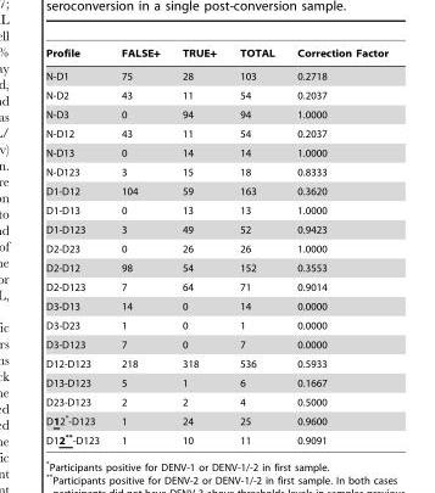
<table><thead><tr><td>Profile</td><td>FALSE+</td><td>TRUE+</td><td>TOTAL</td><td>Correction Factor</td></tr></thead><tbody><tr><td>N-D1</td><td>75</td><td>28</td><td>103</td><td>0.2718</td></tr><tr><td>N-D2</td><td>43</td><td>11</td><td>54</td><td>0.2037</td></tr><tr><td>N-D3</td><td>0</td><td>94</td><td>94</td><td>1.0000</td></tr><tr><td>N-D12</td><td>43</td><td>11</td><td>54</td><td>0.2037</td></tr><tr><td>N-D13</td><td>0</td><td>14</td><td>14</td><td>1.0000</td></tr><tr><td>N-D123</td><td>3</td><td>15</td><td>18</td><td>0.8333</td></tr><tr><td>D1-D12</td><td>104</td><td>59</td><td>163</td><td>0.3620</td></tr><tr><td>D1-D13</td><td>0</td><td>13</td><td>13</td><td>1.0000</td></tr><tr><td>D1-D123</td><td>3</td><td>49</td><td>52</td><td>0.9423</td></tr><tr><td>D2-D23</td><td>0</td><td>26</td><td>26</td><td>1.0000</td></tr><tr><td>D2-D12</td><td>98</td><td>54</td><td>152</td><td>0.3553</td></tr><tr><td>D2-D123</td><td>7</td><td>64</td><td>71</td><td>0.9014</td></tr><tr><td>D3-D13</td><td>14</td><td>0</td><td>14</td><td>0.0000</td></tr><tr><td>D3-D23</td><td>1</td><td>0</td><td>1</td><td>0.0000</td></tr><tr><td>D3-D123</td><td>7</td><td>0</td><td>7</td><td>0.0000</td></tr><tr><td>D12-D123</td><td>218</td><td>318</td><td>536</td><td>0.5933</td></tr><tr><td>D13-D123</td><td>5</td><td>1</td><td>6</td><td>0.1667</td></tr><tr><td>D23-D123</td><td>2</td><td>2</td><td>4</td><td>0.5000</td></tr><tr><td>D12*-D123</td><td>1</td><td>24</td><td>25</td><td>0.9600</td></tr><tr><td>D12**-D123</td><td>1</td><td>10</td><td>11</td><td>0.9091</td></tr></tbody></table>